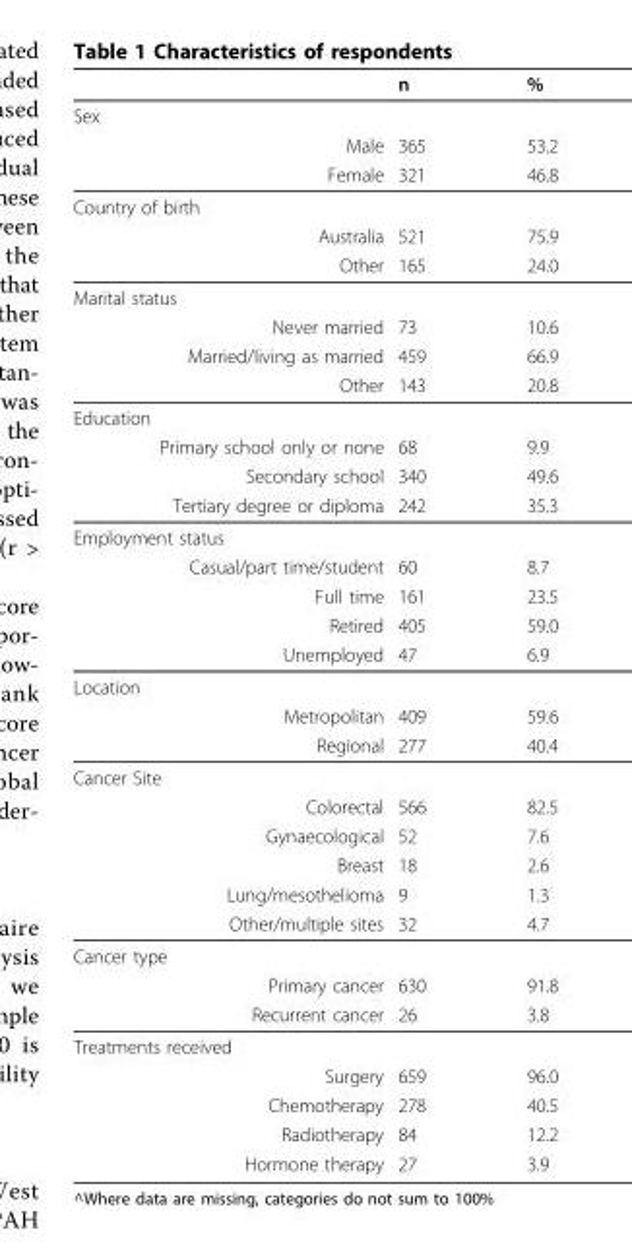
<table><thead><tr><td></td><td>n</td><td>%</td></tr></thead><tbody><tr><td colspan="3">Sex</td></tr><tr><td>Male</td><td>365</td><td>53.2</td></tr><tr><td>Female</td><td>321</td><td>46.8</td></tr><tr><td colspan="3">Country of birth</td></tr><tr><td>Australia</td><td>521</td><td>75.9</td></tr><tr><td>Other</td><td>165</td><td>24.0</td></tr><tr><td colspan="3">Marital status</td></tr><tr><td>Never married</td><td>73</td><td>10.6</td></tr><tr><td>Married/living as married</td><td>459</td><td>66.9</td></tr><tr><td>Other</td><td>143</td><td>20.8</td></tr><tr><td colspan="3">Education</td></tr><tr><td>Primary school only or none</td><td>68</td><td>9.9</td></tr><tr><td>Secondary school</td><td>340</td><td>49.6</td></tr><tr><td>Tertiary degree or diploma</td><td>242</td><td>35.3</td></tr><tr><td colspan="3">Employment status</td></tr><tr><td>Casual/part time/student</td><td>60</td><td>8.7</td></tr><tr><td>Full time</td><td>161</td><td>23.5</td></tr><tr><td>Retired</td><td>405</td><td>59.0</td></tr><tr><td>Unemployed</td><td>47</td><td>6.9</td></tr><tr><td colspan="3">Location</td></tr><tr><td>Metropolitan</td><td>409</td><td>59.6</td></tr><tr><td>Regional</td><td>277</td><td>40.4</td></tr><tr><td colspan="3">Cancer Site</td></tr><tr><td>Colorectal</td><td>566</td><td>82.5</td></tr><tr><td>Gynaecological</td><td>52</td><td>7.6</td></tr><tr><td>Breast</td><td>18</td><td>2.6</td></tr><tr><td>Lung/mesothelioma</td><td>9</td><td>1.3</td></tr><tr><td>Other/multiple sites</td><td>32</td><td>4.7</td></tr><tr><td colspan="3">Cancer type</td></tr><tr><td>Primary cancer</td><td>630</td><td>91.8</td></tr><tr><td>Recurrent cancer</td><td>26</td><td>3.8</td></tr><tr><td colspan="3">Treatments received</td></tr><tr><td>Surgery</td><td>659</td><td>96.0</td></tr><tr><td>Chemotherapy</td><td>278</td><td>40.5</td></tr><tr><td>Radiotherapy</td><td>84</td><td>12.2</td></tr><tr><td>Hormone therapy</td><td>27</td><td>3.9</td></tr></tbody></table>